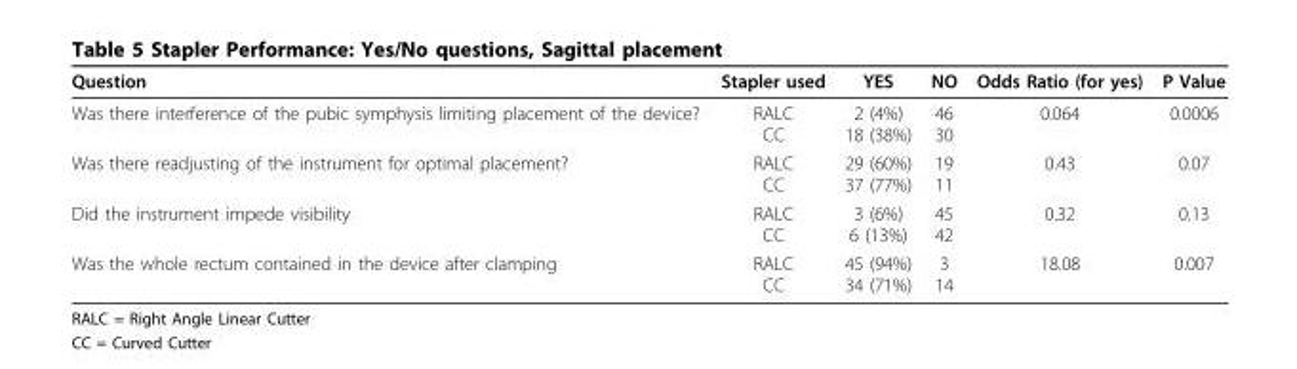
<table><thead><tr><td>Question</td><td>Stapler used</td><td>YES</td><td>NO</td><td>Odds Ratio (for yes)</td><td>P Value</td></tr></thead><tbody><tr><td>Was there interference of the pubic symphysis limiting placement of the device?</td><td>RALC CC</td><td>2 (4%) 18 (38%)</td><td>46 30</td><td>0.064</td><td>0.0006</td></tr><tr><td>Was there readjusting of the instrument for optimal placement?</td><td>RALC CC</td><td>29 (60%) 37 (77%)</td><td>19 11</td><td>0.43</td><td>0.07</td></tr><tr><td>Did the instrument impede visibility</td><td>RALC CC</td><td>3 (6%) 6 (13%)</td><td>45 42</td><td>0.32</td><td>0.13</td></tr><tr><td>Was the whole rectum contained in the device after clamping</td><td>RALC CC</td><td>45 (94%) 34 (71%)</td><td>3 14</td><td>18.08</td><td>0.007</td></tr></tbody></table>